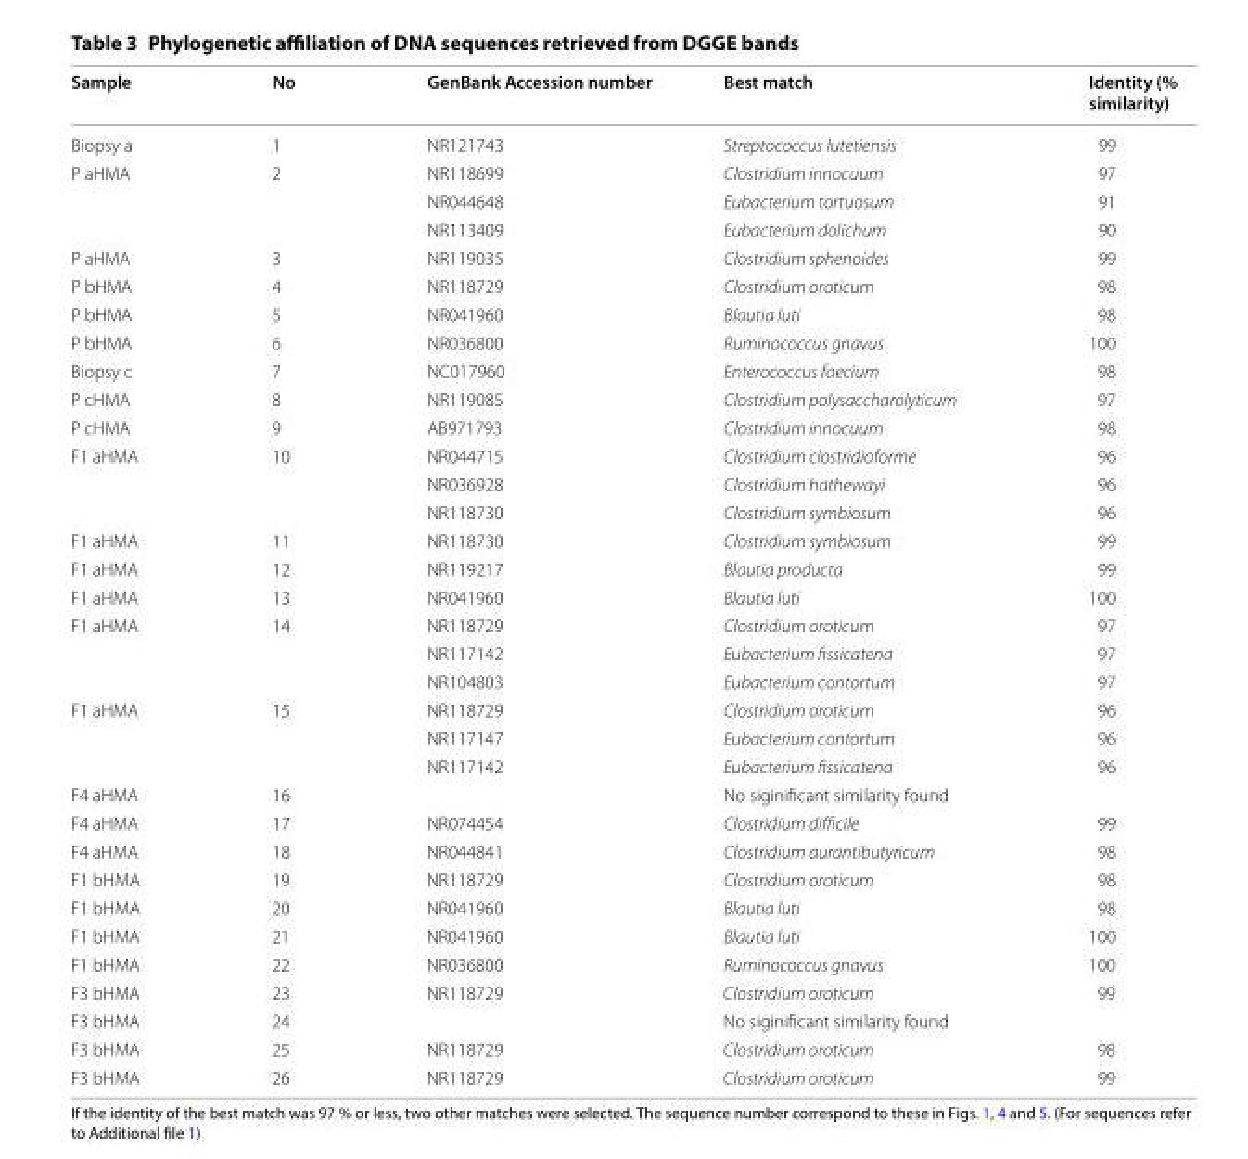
<table><thead><tr><td>Sample</td><td>No</td><td>GenBank Accession number</td><td>Best match</td><td>Identity (% similarity)</td></tr></thead><tbody><tr><td>Biopsy a</td><td>1</td><td>NR121743</td><td>Streptococcus lutetiensis</td><td>99</td></tr><tr><td rowspan="3">P aHMA</td><td rowspan="3">2</td><td>NR118699</td><td>Clostridium innocuum</td><td>97</td></tr><tr><td>NR044648</td><td>Eubacterium tortuosum</td><td>91</td></tr><tr><td>NR113409</td><td>Eubacterium dolichum</td><td>90</td></tr><tr><td>P aHMA</td><td>3</td><td>NR119035</td><td>Clostridium sphenoides</td><td>99</td></tr><tr><td>P bHMA</td><td>4</td><td>NR118729</td><td>Clostridium oroticum</td><td>98</td></tr><tr><td>P bHMA</td><td>5</td><td>NR041960</td><td>Blautia luti</td><td>98</td></tr><tr><td>P bHMA</td><td>6</td><td>NR036800</td><td>Ruminococcus gnavus</td><td>100</td></tr><tr><td>Biopsy c</td><td>7</td><td>NC017960</td><td>Enterococcus faecium</td><td>98</td></tr><tr><td>P cHMA</td><td>8</td><td>NR119085</td><td>Clostridium polysaccharolyticum</td><td>97</td></tr><tr><td>P cHMA</td><td>9</td><td>AB971793</td><td>Clostridium innocuum</td><td>98</td></tr><tr><td rowspan="3">F1 aHMA</td><td rowspan="3">10</td><td>NR044715</td><td>Clostridium clostridioforme</td><td>96</td></tr><tr><td>NR036928</td><td>Clostridium hathewayi</td><td>96</td></tr><tr><td>NR118730</td><td>Clostridium symbiosum</td><td>96</td></tr><tr><td>F1 aHMA</td><td>11</td><td>NR118730</td><td>Clostridium symbiosum</td><td>99</td></tr><tr><td>F1 aHMA</td><td>12</td><td>NR119217</td><td>Blautia producta</td><td>99</td></tr><tr><td>F1 aHMA</td><td>13</td><td>NR041960</td><td>Blautia luti</td><td>100</td></tr><tr><td rowspan="3">F1 aHMA</td><td rowspan="3">14</td><td>NR118729</td><td>Clostridium oroticum</td><td>97</td></tr><tr><td>NR117142</td><td>Eubacterium fissicatena</td><td>97</td></tr><tr><td>NR104803</td><td>Eubacterium contortum</td><td>97</td></tr><tr><td rowspan="3">F1 aHMA</td><td rowspan="3">15</td><td>NR118729</td><td>Clostridium oroticum</td><td>96</td></tr><tr><td>NR117147</td><td>Eubacterium contortum</td><td>96</td></tr><tr><td>NR117142</td><td>Eubacterium fissicatena</td><td>96</td></tr><tr><td>F4 aHMA</td><td>16</td><td></td><td>No siginificant similarity found</td><td></td></tr><tr><td>F4 aHMA</td><td>17</td><td>NR074454</td><td>Clostridium difficile</td><td>99</td></tr><tr><td>F4 aHMA</td><td>18</td><td>NR044841</td><td>Clostridium aurantibutyricum</td><td>98</td></tr><tr><td>F1 bHMA</td><td>19</td><td>NR118729</td><td>Clostridium oroticum</td><td>98</td></tr><tr><td>F1 bHMA</td><td>20</td><td>NR041960</td><td>Blautia luti</td><td>98</td></tr><tr><td>F1 bHMA</td><td>21</td><td>NR041960</td><td>Blautia luti</td><td>100</td></tr><tr><td>F1 bHMA</td><td>22</td><td>NR036800</td><td>Ruminococcus gnavus</td><td>100</td></tr><tr><td>F3 bHMA</td><td>23</td><td>NR118729</td><td>Clostridium oroticum</td><td>99</td></tr><tr><td>F3 bHMA</td><td>24</td><td></td><td>No siginificant similarity found</td><td></td></tr><tr><td>F3 bHMA</td><td>25</td><td>NR118729</td><td>Clostridium oroticum</td><td>98</td></tr><tr><td>F3 bHMA</td><td>26</td><td>NR118729</td><td>Clostridium oroticum</td><td>99</td></tr></tbody></table>